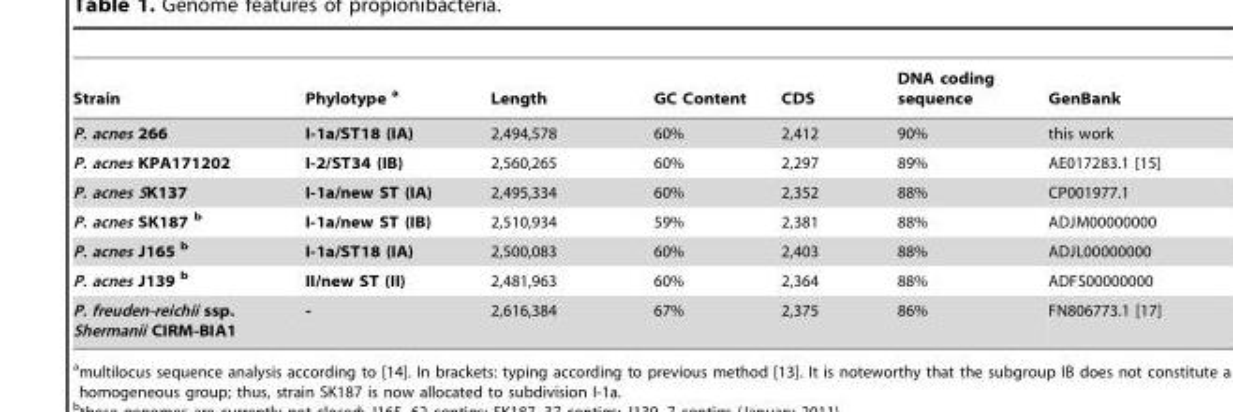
<table><thead><tr><td>Strain</td><td>Phylotype a</td><td>Length</td><td>GC Content</td><td>CDS</td><td>DNA coding sequence</td><td>GenBank</td></tr></thead><tbody><tr><td>P. acnes 266</td><td>I-1a/ST18 (IA)</td><td>2,494,578</td><td>60%</td><td>2,412</td><td>90%</td><td>this work</td></tr><tr><td>P. acnes KPA171202</td><td>I-2/ST34 (IB)</td><td>2,560,265</td><td>60%</td><td>2,297</td><td>89%</td><td>AE017283.1 [15]</td></tr><tr><td>P. acnes SK137</td><td>I-1a/new ST (IA)</td><td>2,495,334</td><td>60%</td><td>2,352</td><td>88%</td><td>CP001977.1</td></tr><tr><td>P. acnes SK187 b</td><td>I-1a/new ST (IB)</td><td>2,510,934</td><td>59%</td><td>2,381</td><td>88%</td><td>ADJM00000000</td></tr><tr><td>P. acnes J165 b</td><td>I-1a/ST18 (IA)</td><td>2,500,083</td><td>60%</td><td>2,403</td><td>88%</td><td>ADJL00000000</td></tr><tr><td>P. acnes J139 b</td><td>II/new ST (II)</td><td>2,481,963</td><td>60%</td><td>2,364</td><td>88%</td><td>ADFS00000000</td></tr><tr><td>P. freuden-reichii ssp. Shermanii CIRM-BIA1</td><td>-</td><td>2,616,384</td><td>67%</td><td>2,375</td><td>86%</td><td>FN806773.1 [17]</td></tr></tbody></table>